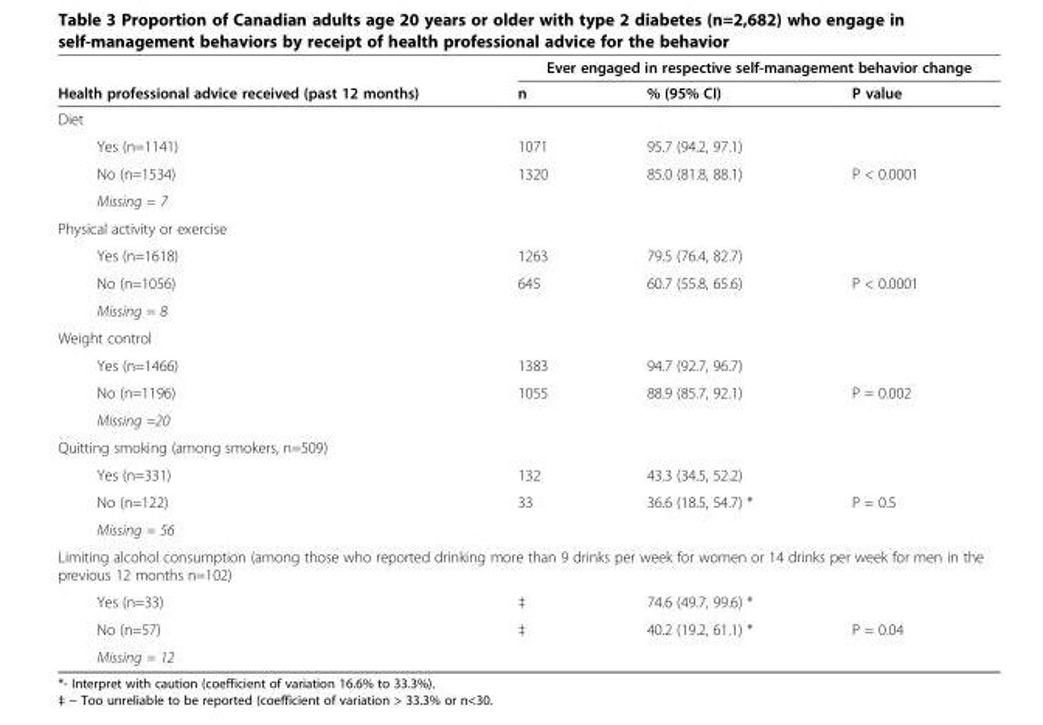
<table><thead><tr><td rowspan="2">Health professional advice received (past 12 months)</td><td colspan="3">Ever engaged in respective self-management behavior change</td></tr><tr><td>n</td><td>% (95% CI)</td><td>P value</td></tr></thead><tbody><tr><td colspan="4">Diet</td></tr><tr><td>Yes (n=1141)</td><td>1071</td><td>95.7 (94.2, 97.1)</td><td></td></tr><tr><td>No (n=1534)</td><td>1320</td><td>85.0 (81.8, 88.1)</td><td>P &lt; 0.0001</td></tr><tr><td colspan="4">Missing = 7</td></tr><tr><td colspan="4">Physical activity or exercise</td></tr><tr><td>Yes (n=1618)</td><td>1263</td><td>79.5 (76.4, 82.7)</td><td></td></tr><tr><td>No (n=1056)</td><td>645</td><td>60.7 (55.8, 65.6)</td><td>P &lt; 0.0001</td></tr><tr><td colspan="4">Missing = 8</td></tr><tr><td colspan="4">Weight control</td></tr><tr><td>Yes (n=1466)</td><td>1383</td><td>94.7 (92.7, 96.7)</td><td></td></tr><tr><td>No (n=1196)</td><td>1055</td><td>88.9 (85.7, 92.1)</td><td>P = 0.002</td></tr><tr><td colspan="4">Missing =20</td></tr><tr><td colspan="4">Quitting smoking (among smokers, n=509)</td></tr><tr><td>Yes (n=331)</td><td>132</td><td>43.3 (34.5, 52.2)</td><td></td></tr><tr><td>No (n=122)</td><td>33</td><td>36.6 (18.5, 54.7) *</td><td>P = 0.5</td></tr><tr><td colspan="4">Missing = 56</td></tr><tr><td colspan="4">Limiting alcohol consumption (among those who reported drinking more than 9 drinks per week for women or 14 drinks per week for men in the previous 12 months n=102)</td></tr><tr><td>Yes (n=33)</td><td>‡</td><td>74.6 (49.7, 99.6) *</td><td></td></tr><tr><td>No (n=57)</td><td>‡</td><td>40.2 (19.2, 61.1) *</td><td>P = 0.04</td></tr><tr><td>Missing = 12</td><td></td><td></td><td></td></tr></tbody></table>